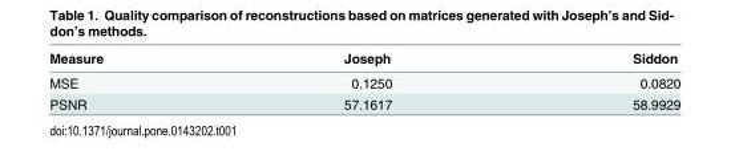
<table><thead><tr><td>Measure</td><td>Joseph</td><td>Siddon</td></tr></thead><tbody><tr><td>MSE</td><td>0.1250</td><td>0.0820</td></tr><tr><td>PSNR</td><td>57.1617</td><td>58.9929</td></tr></tbody></table>